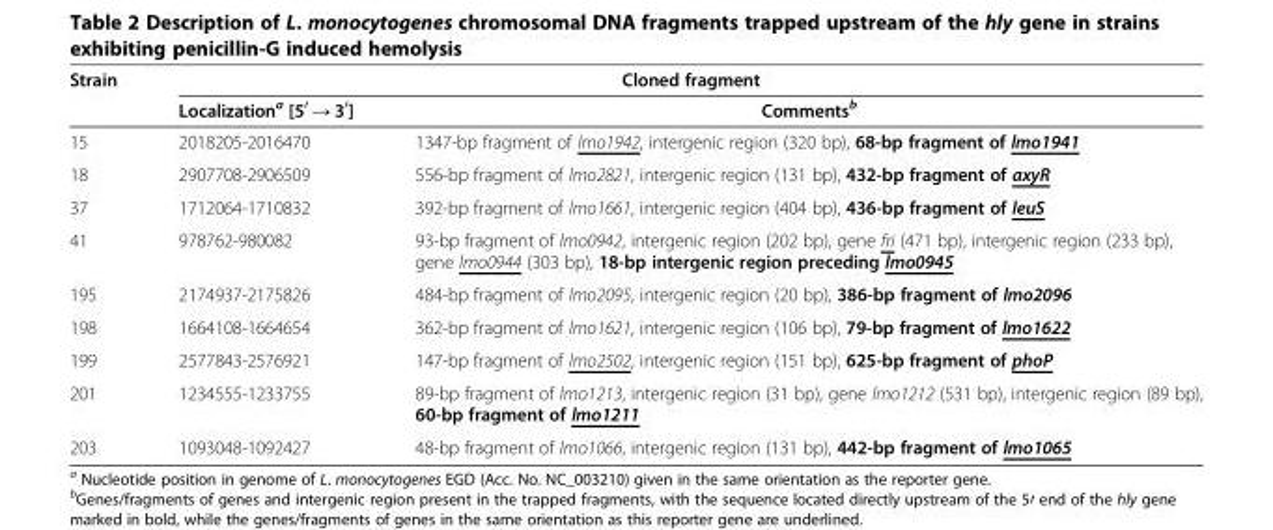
<table><thead><tr><td rowspan="2">Strain</td><td colspan="2">Cloned fragment</td></tr><tr><td>Localization<sup>a</sup> [5<sup>′</sup> → 3<sup>′</sup>]</td><td>Comments<sup>b</sup></td></tr></thead><tbody><tr><td>15</td><td>2018205-2016470</td><td>1347-bp fragment of lmo1942, intergenic region (320 bp), 68-bp fragment of lmo1941</td></tr><tr><td>18</td><td>2907708-2906509</td><td>556-bp fragment of lmo2821, intergenic region (131 bp), 432-bp fragment of axyR</td></tr><tr><td>37</td><td>1712064-1710832</td><td>392-bp fragment of lmo1661, intergenic region (404 bp), 436-bp fragment of leuS</td></tr><tr><td>41</td><td>978762-980082</td><td>93-bp fragment of lmo0942, intergenic region (202 bp), gene fri (471 bp), intergenic region (233 bp), gene lmo0944 (303 bp), 18-bp intergenic region preceding lmo0945</td></tr><tr><td>195</td><td>2174937-2175826</td><td>484-bp fragment of lmo2095, intergenic region (20 bp), 386-bp fragment of lmo2096</td></tr><tr><td>198</td><td>1664108-1664654</td><td>362-bp fragment of lmo1621, intergenic region (106 bp), 79-bp fragment of lmo1622</td></tr><tr><td>199</td><td>2577843-2576921</td><td>147-bp fragment of lmo2502, intergenic region (151 bp), 625-bp fragment of phoP</td></tr><tr><td>201</td><td>1234555-1233755</td><td>89-bp fragment of lmo1213, intergenic region (31 bp), gene lmo1212 (531 bp), intergenic region (89 bp), 60-bp fragment of lmo1211</td></tr><tr><td>203</td><td>1093048-1092427</td><td>48-bp fragment of lmo1066, intergenic region (131 bp), 442-bp fragment of lmo1065</td></tr></tbody></table>